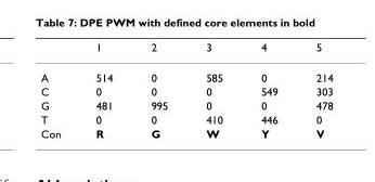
<table><thead><tr><td></td><td>1</td><td>2</td><td>3</td><td>4</td><td>5</td></tr></thead><tbody><tr><td>A</td><td>514</td><td>0</td><td>585</td><td>0</td><td>214</td></tr><tr><td>C</td><td>0</td><td>0</td><td>0</td><td>549</td><td>303</td></tr><tr><td>G</td><td>481</td><td>995</td><td>0</td><td>0</td><td>478</td></tr><tr><td>T</td><td>0</td><td>0</td><td>410</td><td>446</td><td>0</td></tr><tr><td>Con</td><td>R</td><td>G</td><td>W</td><td>Y</td><td>V</td></tr></tbody></table>